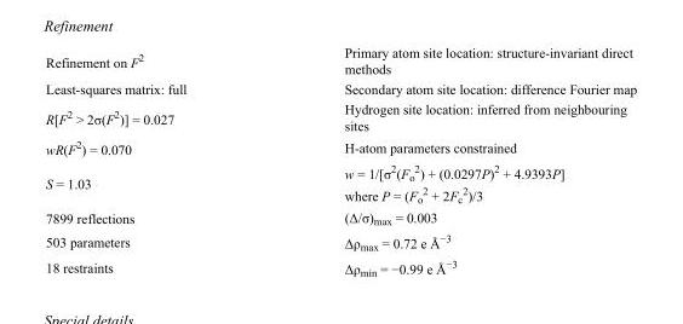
<table><tbody><tr><td>Refinement on F<sup>2</sup></td><td>Primary atom site location: structure-invariant direct methods</td></tr><tr><td>Least-squares matrix: full</td><td>Secondary atom site location: difference Fourier map</td></tr><tr><td>R[F<sup>2</sup> &gt; 2σ(F<sup>2</sup>)] = 0.027</td><td>Hydrogen site location: inferred from neighbouring sites</td></tr><tr><td>wR(F<sup>2</sup>) = 0.070</td><td>H-atom parameters constrained</td></tr><tr><td>S = 1.03</td><td>w = 1/[σ<sup>2</sup>(F<sub>o</sub> <sup>2</sup>) + (0.0297P)<sup>2</sup> + 4.9393P] where P = (F<sub>o</sub> <sup>2</sup> + 2F<sub>c</sub> <sup>2</sup>)/3</td></tr><tr><td>7899 reflections</td><td>(Δ/σ)<sub>max</sub> = 0.003</td></tr><tr><td>503 parameters</td><td>Δρ<sub>max</sub> = 0.72 e Å<sup>−3</sup></td></tr><tr><td>18 restraints</td><td>Δρ<sub>min</sub> = −0.99 e Å<sup>−3</sup></td></tr></tbody></table>